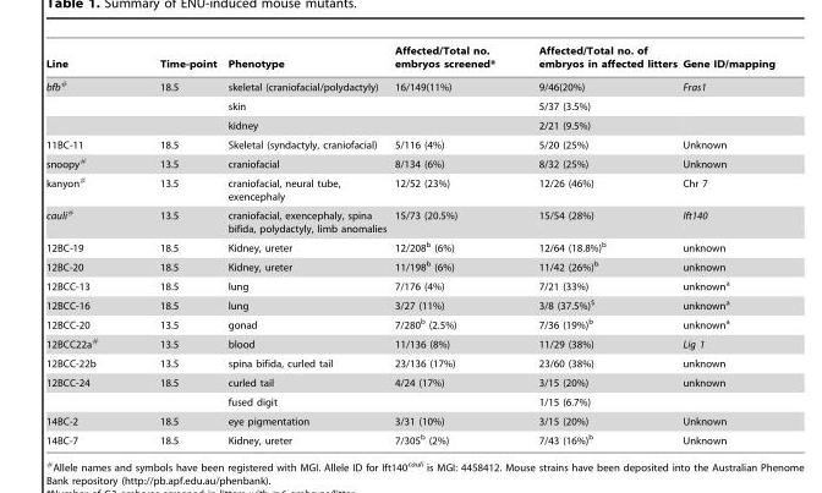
<table><thead><tr><td>Line</td><td>Time-point</td><td>Phenotype</td><td>Affected/Total no. embryos screened*</td><td>Affected/Total no. of embryos in affected litters</td><td>Gene ID/mapping</td></tr></thead><tbody><tr><td rowspan="3">bfb#</td><td>18.5</td><td>skeletal (craniofacial/polydactyly)</td><td>16/149(11%)</td><td>9/46(20%)</td><td>Fras1</td></tr><tr><td></td><td>skin</td><td></td><td>5/37 (3.5%)</td><td></td></tr><tr><td></td><td>kidney</td><td></td><td>2/21 (9.5%)</td><td></td></tr><tr><td>11BC-11</td><td>18.5</td><td>Skeletal (syndactyly, craniofacial)</td><td>5/116 (4%)</td><td>5/20 (25%)</td><td>Unknown</td></tr><tr><td>snoopy#</td><td>13.5</td><td>craniofacial</td><td>8/134 (6%)</td><td>8/32 (25%)</td><td>Unknown</td></tr><tr><td>kanyon#</td><td>13.5</td><td>craniofacial, neural tube, exencephaly</td><td>12/52 (23%)</td><td>12/26 (46%)</td><td>Chr 7</td></tr><tr><td>cauli#</td><td>13.5</td><td>craniofacial, exencephaly, spina bifida, polydactyly, limb anomalies</td><td>15/73 (20.5%)</td><td>15/54 (28%)</td><td>Ift140</td></tr><tr><td>12BC-19</td><td>18.5</td><td>Kidney, ureter</td><td>12/208<sup>b</sup> (6%)</td><td>12/64 (18.8%)<sup>b</sup></td><td>unknown</td></tr><tr><td>12BC-20</td><td>18.5</td><td>Kidney, ureter</td><td>11/198<sup>b</sup> (6%)</td><td>11/42 (26%)<sup>b</sup></td><td>unknown</td></tr><tr><td>12BCC-13</td><td>18.5</td><td>lung</td><td>7/176 (4%)</td><td>7/21 (33%)</td><td>unknown<sup>a</sup></td></tr><tr><td>12BCC-16</td><td>18.5</td><td>lung</td><td>3/27 (11%)</td><td>3/8 (37.5%)$</td><td>unknown<sup>a</sup></td></tr><tr><td>12BCC-20</td><td>13.5</td><td>gonad</td><td>7/280<sup>b</sup> (2.5%)</td><td>7/36 (19%)<sup>b</sup></td><td>unknown<sup>a</sup></td></tr><tr><td>12BCC22a#</td><td>13.5</td><td>blood</td><td>11/136 (8%)</td><td>11/29 (38%)</td><td>Lig 1</td></tr><tr><td>12BCC-22b</td><td>13.5</td><td>spina bifida, curled tail</td><td>23/136 (17%)</td><td>23/60 (38%)</td><td>unknown</td></tr><tr><td rowspan="2">12BCC-24</td><td>18.5</td><td>curled tail</td><td>4/24 (17%)</td><td>3/15 (20%)</td><td>unknown</td></tr><tr><td></td><td>fused digit</td><td></td><td>1/15 (6.7%)</td><td></td></tr><tr><td>14BC-2</td><td>18.5</td><td>eye pigmentation</td><td>3/31 (10%)</td><td>3/15 (20%)</td><td>Unknown</td></tr><tr><td>14BC-7</td><td>18.5</td><td>Kidney, ureter</td><td>7/305<sup>b</sup> (2%)</td><td>7/43 (16%)<sup>b</sup></td><td>Unknown</td></tr></tbody></table>